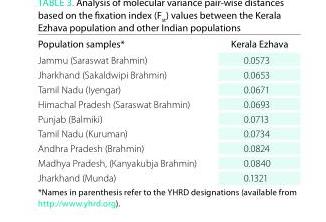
<table><thead><tr><td>Population samples*</td><td>Kerala ezhava</td></tr></thead><tbody><tr><td>Jammu (Saraswat Brahmin)</td><td>0.0573</td></tr><tr><td>Jharkhand (Sakaldwipi Brahmin)</td><td>0.0653</td></tr><tr><td>Tamil Nadu (Iyengar)</td><td>0.0671</td></tr><tr><td>Himachal Pradesh (Saraswat Brahmin)</td><td>0.0693</td></tr><tr><td>Punjab (Balmiki)</td><td>0.0713</td></tr><tr><td>Tamil Nadu (Kuruman)</td><td>0.0734</td></tr><tr><td>Andhra Pradesh (Brahmin)</td><td>0.0824</td></tr><tr><td>Madhya Pradesh, (Kanyakubja Brahmin)</td><td>0.0840</td></tr><tr><td>Jharkhand (Munda)</td><td>0.1321</td></tr></tbody></table>